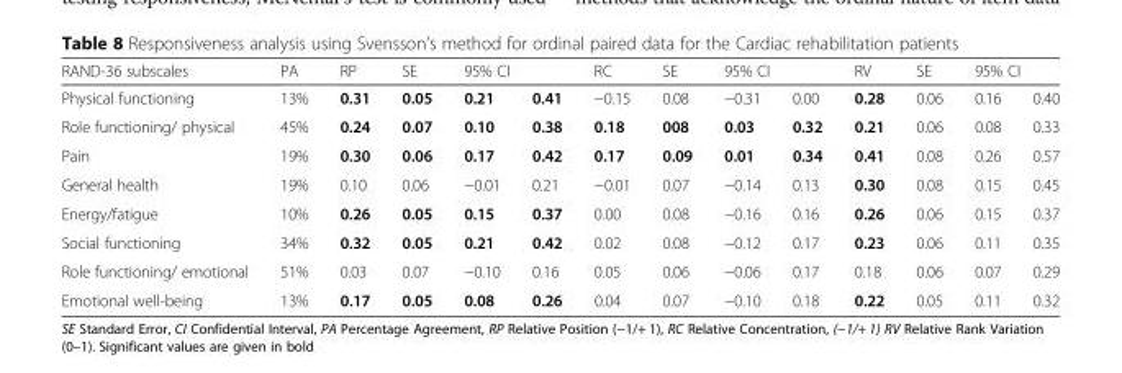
<table><thead><tr><td rowspan="2">RAND-36 subscales Physical functioning</td><td rowspan="2">PA 13%</td><td rowspan="2">RP 0.31</td><td rowspan="2">SE 0.05</td><td colspan="2">95% CI</td><td rowspan="2">RC −0.15</td><td rowspan="2">SE 0.08</td><td colspan="2">95% CI</td><td rowspan="2">RV 0.28</td><td rowspan="2">SE 0.06</td><td colspan="2">95% CI</td></tr><tr><td>0.21</td><td>0.41</td><td>−0.31</td><td>0.00</td><td>0.16</td><td>0.40</td></tr></thead><tbody><tr><td>Role functioning/ physical</td><td>45%</td><td>0.24</td><td>0.07</td><td>0.10</td><td>0.38</td><td>0.18</td><td>008</td><td>0.03</td><td>0.32</td><td>0.21</td><td>0.06</td><td>0.08</td><td>0.33</td></tr><tr><td>Pain</td><td>19%</td><td>0.30</td><td>0.06</td><td>0.17</td><td>0.42</td><td>0.17</td><td>0.09</td><td>0.01</td><td>0.34</td><td>0.41</td><td>0.08</td><td>0.26</td><td>0.57</td></tr><tr><td>General health</td><td>19%</td><td>0.10</td><td>0.06</td><td>−0.01</td><td>0.21</td><td>−0.01</td><td>0.07</td><td>−0.14</td><td>0.13</td><td>0.30</td><td>0.08</td><td>0.15</td><td>0.45</td></tr><tr><td>Energy/fatigue</td><td>10%</td><td>0.26</td><td>0.05</td><td>0.15</td><td>0.37</td><td>0.00</td><td>0.08</td><td>−0.16</td><td>0.16</td><td>0.26</td><td>0.06</td><td>0.15</td><td>0.37</td></tr><tr><td>Social functioning</td><td>34%</td><td>0.32</td><td>0.05</td><td>0.21</td><td>0.42</td><td>0.02</td><td>0.08</td><td>−0.12</td><td>0.17</td><td>0.23</td><td>0.06</td><td>0.11</td><td>0.35</td></tr><tr><td>Role functioning/ emotional</td><td>51%</td><td>0.03</td><td>0.07</td><td>−0.10</td><td>0.16</td><td>0.05</td><td>0.06</td><td>−0.06</td><td>0.17</td><td>0.18</td><td>0.06</td><td>0.07</td><td>0.29</td></tr><tr><td>Emotional well-being</td><td>13%</td><td>0.17</td><td>0.05</td><td>0.08</td><td>0.26</td><td>0.04</td><td>0.07</td><td>−0.10</td><td>0.18</td><td>0.22</td><td>0.05</td><td>0.11</td><td>0.32</td></tr></tbody></table>